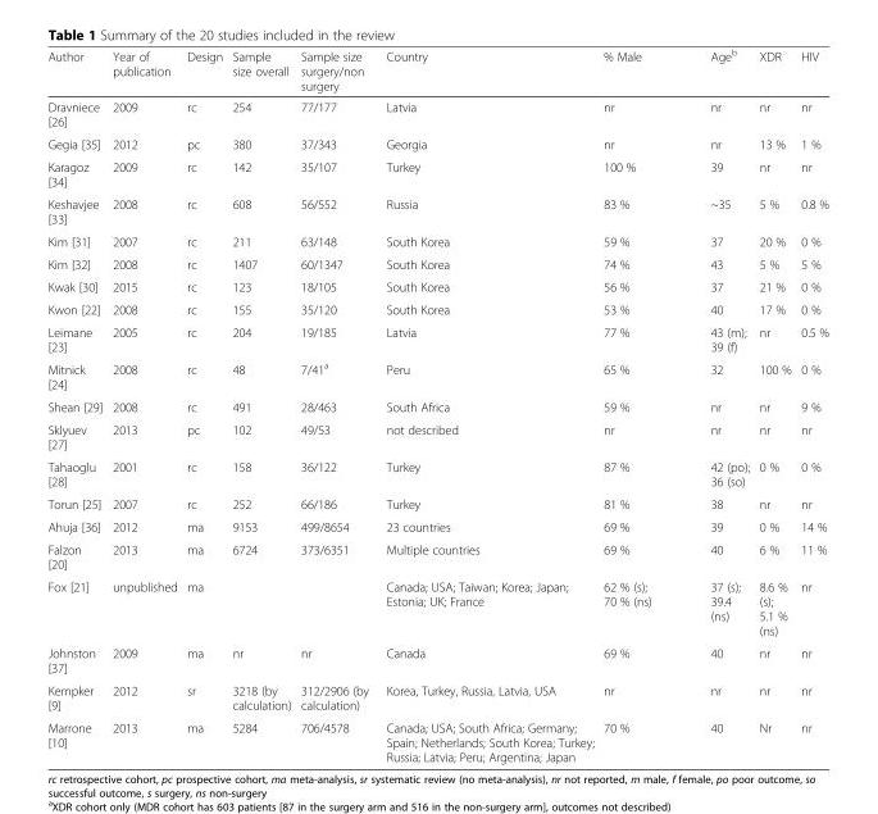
<table><thead><tr><td>Author</td><td>Year of publication</td><td>Design</td><td>Sample size overall</td><td>Sample size surgery/non surgery</td><td>Country</td><td>% Male</td><td>Age<sup>b</sup></td><td>XDR</td><td>HIV</td></tr></thead><tbody><tr><td>Dravniece [26]</td><td>2009</td><td>rc</td><td>254</td><td>77/177</td><td>Latvia</td><td>nr</td><td>nr</td><td>nr</td><td>nr</td></tr><tr><td>Gegia [35]</td><td>2012</td><td>pc</td><td>380</td><td>37/343</td><td>Georgia</td><td>nr</td><td>nr</td><td>13 %</td><td>1 %</td></tr><tr><td>Karagoz [34]</td><td>2009</td><td>rc</td><td>142</td><td>35/107</td><td>Turkey</td><td>100 %</td><td>39</td><td>nr</td><td>nr</td></tr><tr><td>Keshavjee [33]</td><td>2008</td><td>rc</td><td>608</td><td>56/552</td><td>Russia</td><td>83 %</td><td>~35</td><td>5 %</td><td>0.8 %</td></tr><tr><td>Kim [31]</td><td>2007</td><td>rc</td><td>211</td><td>63/148</td><td>South Korea</td><td>59 %</td><td>37</td><td>20 %</td><td>0 %</td></tr><tr><td>Kim [32]</td><td>2008</td><td>rc</td><td>1407</td><td>60/1347</td><td>South Korea</td><td>74 %</td><td>43</td><td>5 %</td><td>5 %</td></tr><tr><td>Kwak [30]</td><td>2015</td><td>rc</td><td>123</td><td>18/105</td><td>South Korea</td><td>56 %</td><td>37</td><td>21 %</td><td>0 %</td></tr><tr><td>Kwon [22]</td><td>2008</td><td>rc</td><td>155</td><td>35/120</td><td>South Korea</td><td>53 %</td><td>40</td><td>17 %</td><td>0 %</td></tr><tr><td>Leimane [23]</td><td>2005</td><td>rc</td><td>204</td><td>19/185</td><td>Latvia</td><td>77 %</td><td>43 (m); 39 (f)</td><td>nr</td><td>0.5 %</td></tr><tr><td>Mitnick [24]</td><td>2008</td><td>rc</td><td>48</td><td>7/41<sup>a</sup></td><td>Peru</td><td>65 %</td><td>32</td><td>100 %</td><td>0 %</td></tr><tr><td>Shean [29]</td><td>2008</td><td>rc</td><td>491</td><td>28/463</td><td>South Africa</td><td>59 %</td><td>nr</td><td>nr</td><td>9 %</td></tr><tr><td>Sklyuev [27]</td><td>2013</td><td>pc</td><td>102</td><td>49/53</td><td>not described</td><td>nr</td><td>nr</td><td>nr</td><td>nr</td></tr><tr><td>Tahaoglu [28]</td><td>2001</td><td>rc</td><td>158</td><td>36/122</td><td>Turkey</td><td>87 %</td><td>42 (po); 36 (so)</td><td>0 %</td><td>0 %</td></tr><tr><td>Torun [25]</td><td>2007</td><td>rc</td><td>252</td><td>66/186</td><td>Turkey</td><td>81 %</td><td>38</td><td>nr</td><td>nr</td></tr><tr><td>Ahuja [36]</td><td>2012</td><td>ma</td><td>9153</td><td>499/8654</td><td>23 countries</td><td>69 %</td><td>39</td><td>0 %</td><td>14 %</td></tr><tr><td>Falzon [20]</td><td>2013</td><td>ma</td><td>6724</td><td>373/6351</td><td>Multiple countries</td><td>69 %</td><td>40</td><td>6 %</td><td>11 %</td></tr><tr><td>Fox [21]</td><td>unpublished</td><td>ma</td><td></td><td></td><td>Canada; USA; Taiwan; Korea; Japan; Estonia; UK; France</td><td>62 % (s); 70 % (ns)</td><td>37 (s); 39.4 (ns)</td><td>8.6 % (s); 5.1 % (ns)</td><td>nr</td></tr><tr><td>Johnston [37]</td><td>2009</td><td>ma</td><td>nr</td><td>nr</td><td>Canada</td><td>69 %</td><td>40</td><td>nr</td><td>nr</td></tr><tr><td>Kempker [9]</td><td>2012</td><td>sr</td><td>3218 (by calculation)</td><td>312/2906 (by calculation)</td><td>Korea, Turkey, Russia, Latvia, USA</td><td>nr</td><td>nr</td><td>nr</td><td>nr</td></tr><tr><td>Marrone [10]</td><td>2013</td><td>ma</td><td>5284</td><td>706/4578</td><td>Canada; USA; South Africa; Germany; Spain; Netherlands; South Korea; Turkey; Russia; Latvia; Peru; Argentina; Japan</td><td>70 %</td><td>40</td><td>Nr</td><td>nr</td></tr></tbody></table>